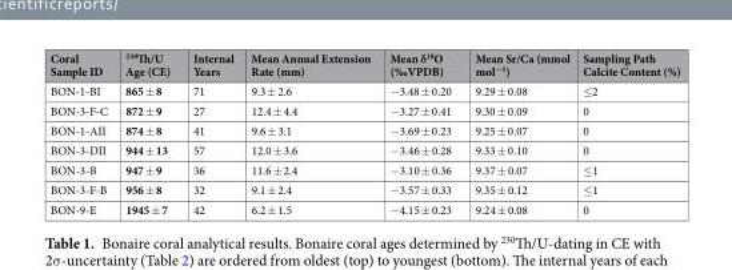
<table><thead><tr><td>Coral Sample ID</td><td><sup>230</sup>Th/U Age (CE)</td><td>Internal Years</td><td>Mean Annual Extension Rate (mm)</td><td>Mean δ<sup>18</sup>O (‰VPDB)</td><td>Mean Sr/Ca (mmol mol<sup>−1</sup>)</td><td>Sampling Path Calcite Content (%)</td></tr></thead><tbody><tr><td>BON-1-BI</td><td>865 ± 8</td><td>71</td><td>9.3 ± 2.6</td><td>−3.48 ± 0.20</td><td>9.29 ± 0.08</td><td>≤2</td></tr><tr><td>BON-3-F-C</td><td>872 ± 9</td><td>27</td><td>12.4 ± 4.4</td><td>−3.27 ± 0.41</td><td>9.30 ± 0.09</td><td>0</td></tr><tr><td>BON-1-AII</td><td>874 ± 8</td><td>41</td><td>9.6 ± 3.1</td><td>−3.69 ± 0.23</td><td>9.25 ± 0.07</td><td>0</td></tr><tr><td>BON-3-DII</td><td>944 ± 13</td><td>57</td><td>12.0 ± 3.6</td><td>−3.46 ± 0.28</td><td>9.33 ± 0.10</td><td>0</td></tr><tr><td>BON-3-B</td><td>947 ± 9</td><td>36</td><td>11.6 ± 2.4</td><td>−3.10 ± 0.36</td><td>9.37 ± 0.07</td><td>≤1</td></tr><tr><td>BON-3-F-B</td><td>956 ± 8</td><td>32</td><td>9.1 ± 2.4</td><td>−3.57 ± 0.33</td><td>9.35 ± 0.12</td><td>≤1</td></tr><tr><td>BON-9-E</td><td>1945 ± 7</td><td>42</td><td>6.2 ± 1.5</td><td>−4.15 ± 0.23</td><td>9.24 ± 0.08</td><td>0</td></tr></tbody></table>